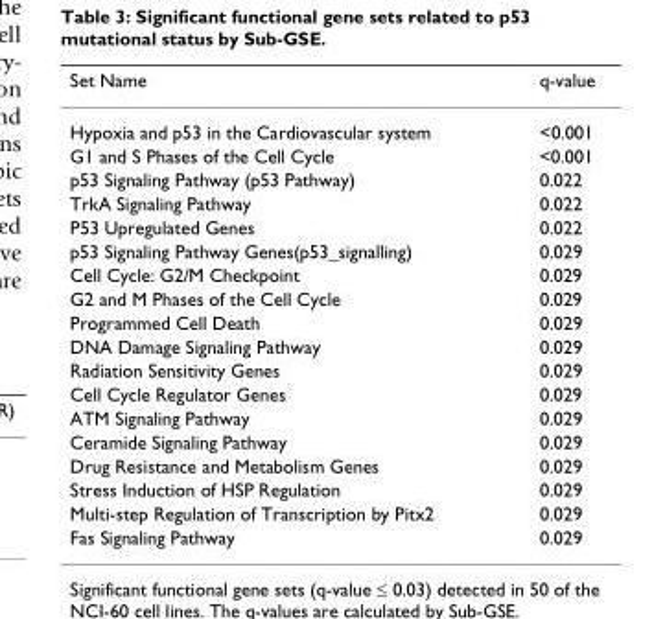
<table><thead><tr><td>Set Name</td><td>q-value</td></tr></thead><tbody><tr><td>Hypoxia and p53 in the Cardiovascular system</td><td>&lt;0.001</td></tr><tr><td>G1 and S Phases of the Cell Cycle</td><td>&lt;0.001</td></tr><tr><td>p53 Signaling Pathway (p53 Pathway)</td><td>0.022</td></tr><tr><td>TrkA Signaling Pathway</td><td>0.022</td></tr><tr><td>P53 Upregulated Genes</td><td>0.022</td></tr><tr><td>p53 Signaling Pathway Genes(p53_signalling)</td><td>0.029</td></tr><tr><td>Cell Cycle: G2/M Checkpoint</td><td>0.029</td></tr><tr><td>G2 and M Phases of the Cell Cycle</td><td>0.029</td></tr><tr><td>Programmed Cell Death</td><td>0.029</td></tr><tr><td>DNA Damage Signaling Pathway</td><td>0.029</td></tr><tr><td>Radiation Sensitivity Genes</td><td>0.029</td></tr><tr><td>Cell Cycle Regulator Genes</td><td>0.029</td></tr><tr><td>ATM Signaling Pathway</td><td>0.029</td></tr><tr><td>Ceramide Signaling Pathway</td><td>0.029</td></tr><tr><td>Drug Resistance and Metabolism Genes</td><td>0.029</td></tr><tr><td>Stress Induction of HSP Regulation</td><td>0.029</td></tr><tr><td>Multi-step Regulation of Transcription by Pitx2</td><td>0.029</td></tr><tr><td>Fas Signaling Pathway</td><td>0.029</td></tr></tbody></table>